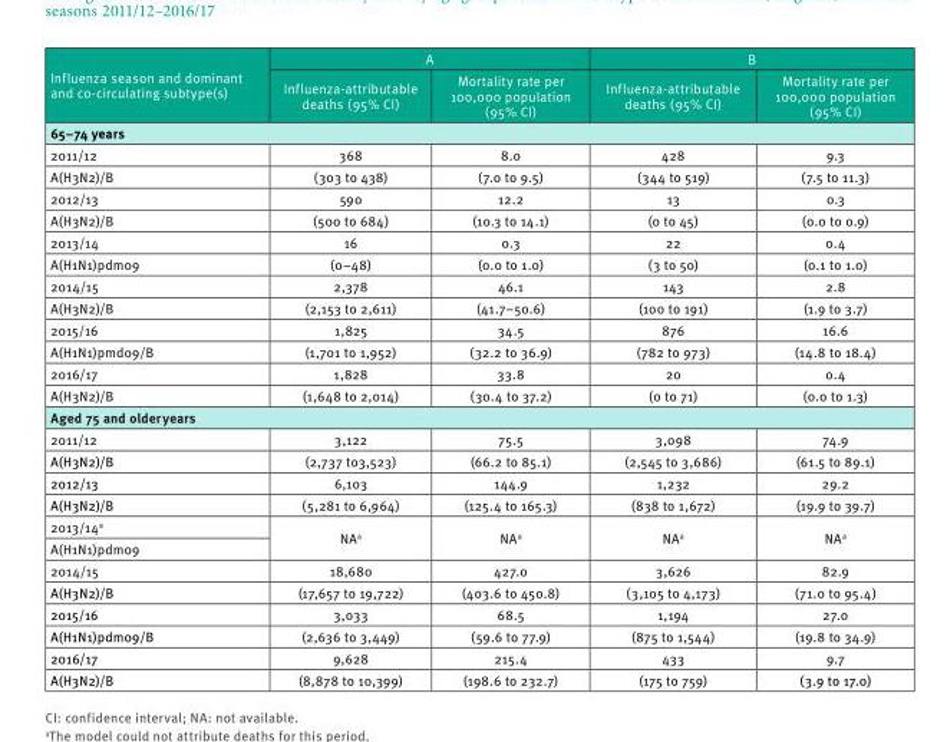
<table><thead><tr><td rowspan="2">Influenza season and dominant and co-circulating subtype(s)</td><td colspan="2">A</td><td colspan="2">B</td></tr><tr><td>Influenza-attributable deaths (95% CI)</td><td>Mortality rate per 100,000 population (95% CI)</td><td>Influenza-attributable deaths (95% CI)</td><td>Mortality rate per 100,000 population (95% CI)</td></tr></thead><tbody><tr><td colspan="5">65–74 years</td></tr><tr><td>2011/12</td><td>368</td><td>8.0</td><td>428</td><td>9.3</td></tr><tr><td>A(H3N2)/B</td><td>(303 to 438)</td><td>(7.0 to 9.5)</td><td>(344 to 519)</td><td>(7.5 to 11.3)</td></tr><tr><td>2012/13</td><td>590</td><td>12.2</td><td>13</td><td>0.3</td></tr><tr><td>A(H3N2)/B</td><td>(500 to 684)</td><td>(10.3 to 14.1)</td><td>(0 to 45)</td><td>(0.0 to 0.9)</td></tr><tr><td>2013/14</td><td>16</td><td>0.3</td><td>22</td><td>0.4</td></tr><tr><td>A(H1N1)pdm09</td><td>(0–48)</td><td>(0.0 to 1.0)</td><td>(3 to 50)</td><td>(0.1 to 1.0)</td></tr><tr><td>2014/15</td><td>2,378</td><td>46.1</td><td>143</td><td>2.8</td></tr><tr><td>A(H3N2)/B</td><td>(2,153 to 2,611)</td><td>(41.7–50.6)</td><td>(100 to 191)</td><td>(1.9 to 3.7)</td></tr><tr><td>2015/16</td><td>1,825</td><td>34.5</td><td>876</td><td>16.6</td></tr><tr><td>A(H1N1)pmd09/B</td><td>(1,701 to 1,952)</td><td>(32.2 to 36.9)</td><td>(782 to 973)</td><td>(14.8 to 18.4)</td></tr><tr><td>2016/17</td><td>1,828</td><td>33.8</td><td>20</td><td>0.4</td></tr><tr><td>A(H3N2)/B</td><td>(1,648 to 2,014)</td><td>(30.4 to 37.2)</td><td>(0 to 71)</td><td>(0.0 to 1.3)</td></tr><tr><td colspan="5">Aged 75 and older years</td></tr><tr><td>2011/12</td><td>3,122</td><td>75.5</td><td>3,098</td><td>74.9</td></tr><tr><td>A(H3N2)/B</td><td>(2,737 to3,523)</td><td>(66.2 to 85.1)</td><td>(2,545 to 3,686)</td><td>(61.5 to 89.1)</td></tr><tr><td>2012/13</td><td>6,103</td><td>144.9</td><td>1,232</td><td>29.2</td></tr><tr><td>A(H3N2)/B</td><td>(5,281 to 6,964)</td><td>(125.4 to 165.3)</td><td>(838 to 1,672)</td><td>(19.9 to 39.7)</td></tr><tr><td>2013/14<sup>a</sup></td><td rowspan="2">NA<sup>a</sup></td><td rowspan="2">NA<sup>a</sup></td><td rowspan="2">NA<sup>a</sup></td><td rowspan="2">NA<sup>a</sup></td></tr><tr><td>A(H1N1)pdm09</td></tr><tr><td>2014/15</td><td>18,680</td><td>427.0</td><td>3,626</td><td>82.9</td></tr><tr><td>A(H3N2)/B</td><td>(17,657 to 19,722)</td><td>(403.6 to 450.8)</td><td>(3,105 to 4,173)</td><td>(71.0 to 95.4)</td></tr><tr><td>2015/16</td><td>3,033</td><td>68.5</td><td>1,194</td><td>27.0</td></tr><tr><td>A(H1N1)pdm09/B</td><td>(2,636 to 3,449)</td><td>(59.6 to 77.9)</td><td>(875 to 1,544)</td><td>(19.8 to 34.9)</td></tr><tr><td>2016/17</td><td>9,628</td><td>215.4</td><td>433</td><td>9.7</td></tr><tr><td>A(H3N2)/B</td><td>(8,878 to 10,399)</td><td>(198.6 to 232.7)</td><td>(175 to 759)</td><td>(3.9 to 17.0)</td></tr></tbody></table>